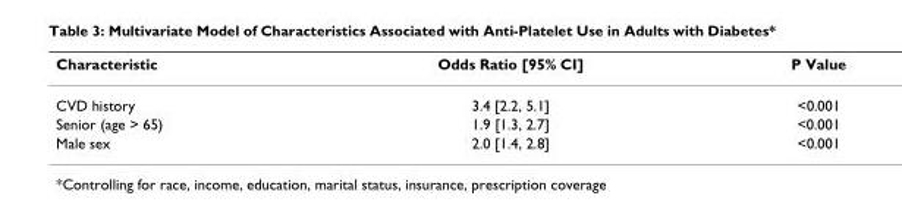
<table><thead><tr><td>Characteristic</td><td>Odds Ratio [95% CI]</td><td>P Value</td></tr></thead><tbody><tr><td>CVD history</td><td>3.4 [2.2, 5.1]</td><td>&lt;0.001</td></tr><tr><td>Senior (age &gt; 65)</td><td>1.9 [1.3, 2.7]</td><td>&lt;0.001</td></tr><tr><td>Male sex</td><td>2.0 [1.4, 2.8]</td><td>&lt;0.001</td></tr></tbody></table>